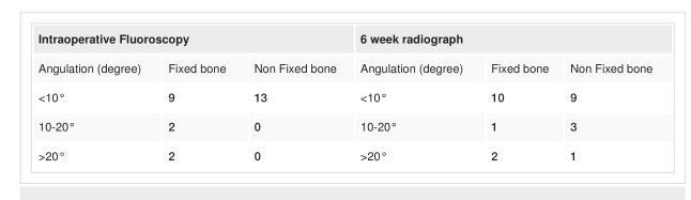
<table><tbody><tr><td colspan="3">Intraoperative Fluoroscopy</td><td colspan="3">6 week radiograph</td></tr><tr><td>Angulation (degree)</td><td>Fixed bone</td><td>Non Fixed bone</td><td>Angulation (degree)</td><td>Fixed bone</td><td>Non Fixed bone</td></tr><tr><td>&lt;10°</td><td>9</td><td>13</td><td>&lt;10°</td><td>10</td><td>9</td></tr><tr><td>10-20°</td><td>2</td><td>0</td><td>10-20°</td><td>1</td><td>3</td></tr><tr><td>&gt;20°</td><td>2</td><td>0</td><td>&gt;20°</td><td>2</td><td>1</td></tr></tbody></table>